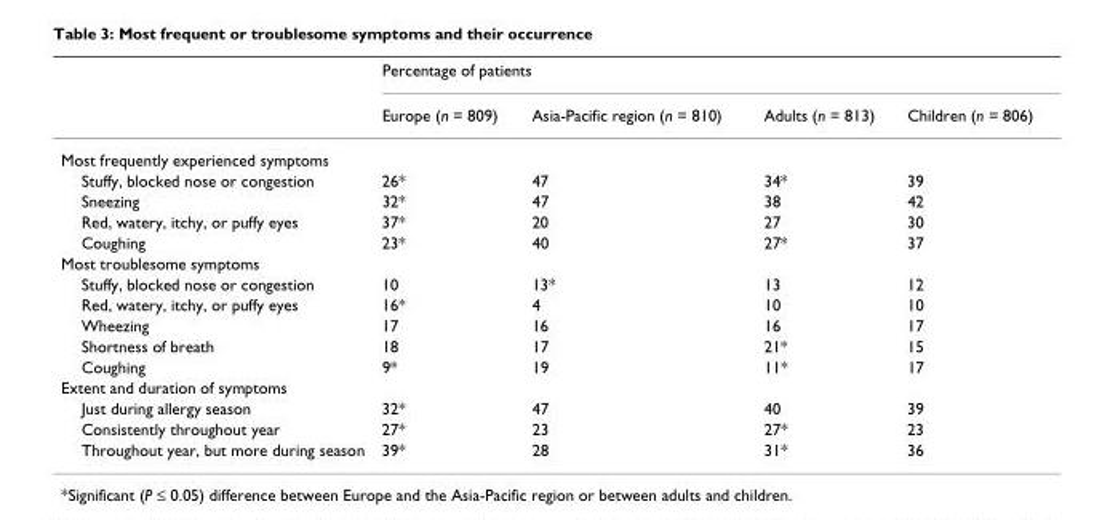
<table><thead><tr><td rowspan="2"></td><td colspan="4">Percentage of patients</td></tr><tr><td>Europe (n = 809)</td><td>Asia-Pacific region (n = 810)</td><td>Adults (n = 813)</td><td>Children (n = 806)</td></tr></thead><tbody><tr><td colspan="5">Most frequently experienced symptoms</td></tr><tr><td>Stuffy, blocked nose or congestion</td><td>26*</td><td>47</td><td>34*</td><td>39</td></tr><tr><td>Sneezing</td><td>32*</td><td>47</td><td>38</td><td>42</td></tr><tr><td>Red, watery, itchy, or puffy eyes</td><td>37*</td><td>20</td><td>27</td><td>30</td></tr><tr><td>Coughing</td><td>23*</td><td>40</td><td>27*</td><td>37</td></tr><tr><td colspan="5">Most troublesome symptoms</td></tr><tr><td>Stuffy, blocked nose or congestion</td><td>10</td><td>13*</td><td>13</td><td>12</td></tr><tr><td>Red, watery, itchy, or puffy eyes</td><td>16*</td><td>4</td><td>10</td><td>10</td></tr><tr><td>Wheezing</td><td>17</td><td>16</td><td>16</td><td>17</td></tr><tr><td>Shortness of breath</td><td>18</td><td>17</td><td>21*</td><td>15</td></tr><tr><td>Coughing</td><td>9*</td><td>19</td><td>11*</td><td>17</td></tr><tr><td colspan="5">Extent and duration of symptoms</td></tr><tr><td>Just during allergy season</td><td>32*</td><td>47</td><td>40</td><td>39</td></tr><tr><td>Consistently throughout year</td><td>27*</td><td>23</td><td>27*</td><td>23</td></tr><tr><td>Throughout year, but more during season</td><td>39*</td><td>28</td><td>31*</td><td>36</td></tr></tbody></table>